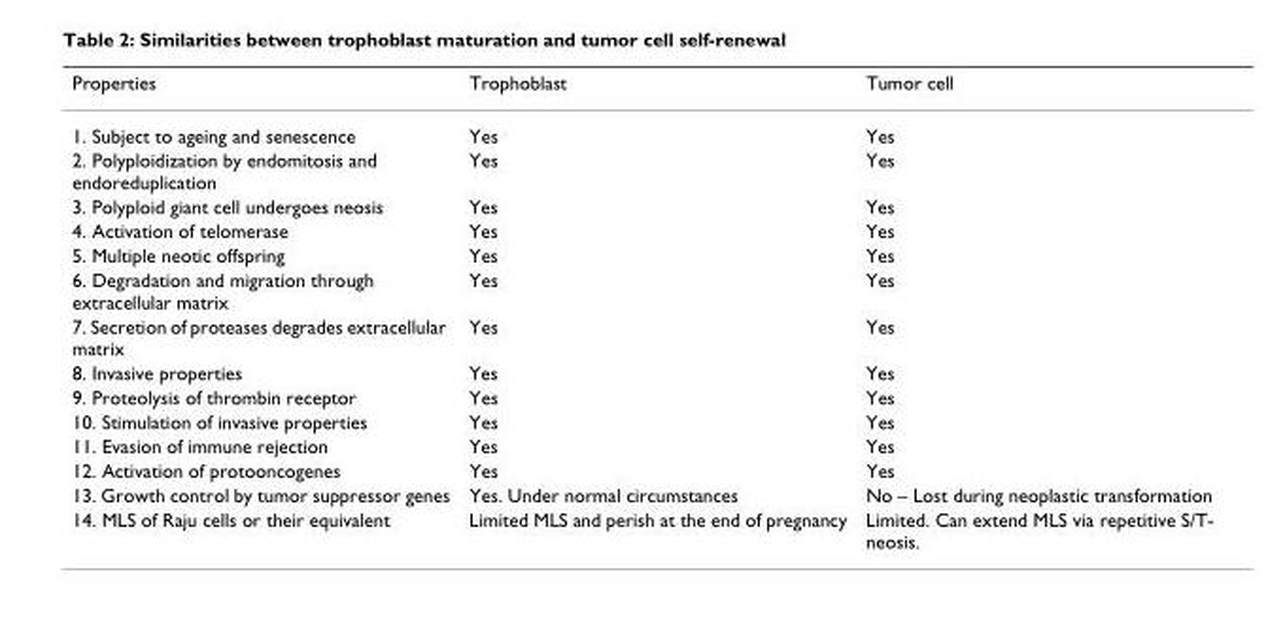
<table><thead><tr><td>Properties</td><td>Trophoblast</td><td>Tumor cell</td></tr></thead><tbody><tr><td>1. Subject to ageing and senescence</td><td>Yes</td><td>Yes</td></tr><tr><td>2. Polyploidization by endomitosis and endoreduplication</td><td>Yes</td><td>Yes</td></tr><tr><td>3. Polyploid giant cell undergoes neosis</td><td>Yes</td><td>Yes</td></tr><tr><td>4. Activation of telomerase</td><td>Yes</td><td>Yes</td></tr><tr><td>5. Multiple neotic offspring</td><td>Yes</td><td>Yes</td></tr><tr><td>6. Degradation and migration through extracellular matrix</td><td>Yes</td><td>Yes</td></tr><tr><td>7. Secretion of proteases degrades extracellular matrix</td><td>Yes</td><td>Yes</td></tr><tr><td>8. Invasive properties</td><td>Yes</td><td>Yes</td></tr><tr><td>9. Proteolysis of thrombin receptor</td><td>Yes</td><td>Yes</td></tr><tr><td>10. Stimulation of invasive properties</td><td>Yes</td><td>Yes</td></tr><tr><td>11. Evasion of immune rejection</td><td>Yes</td><td>Yes</td></tr><tr><td>12. Activation of protooncogenes</td><td>Yes</td><td>Yes</td></tr><tr><td>13. Growth control by tumor suppressor genes</td><td>Yes. Under normal circumstances</td><td>No – Lost during neoplastic transformation</td></tr><tr><td>14. MLS of Raju cells or their equivalent</td><td>Limited MLS and perish at the end of pregnancy</td><td>Limited. Can extend MLS via repetitive S/T- neosis.</td></tr></tbody></table>